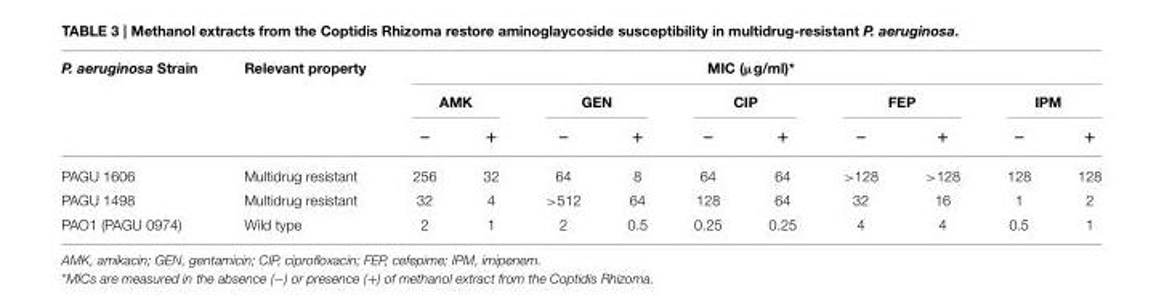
<table><thead><tr><td rowspan="3">P. aeruginosa Strain</td><td rowspan="3">Relevant property</td><td colspan="10">MIC (µg/ml)*</td></tr><tr><td colspan="2">AMK</td><td colspan="2">GEN</td><td colspan="2">CIP</td><td colspan="2">FEP</td><td colspan="2">IPM</td></tr><tr><td>−</td><td>+</td><td>−</td><td>+</td><td>−</td><td>+</td><td>−</td><td>+</td><td>−</td><td>+</td></tr></thead><tbody><tr><td>PAGU 1606</td><td>Multidrug resistant</td><td>256</td><td>32</td><td>64</td><td>8</td><td>64</td><td>64</td><td>&gt;128</td><td>&gt;128</td><td>128</td><td>128</td></tr><tr><td>PAGU 1498</td><td>Multidrug resistant</td><td>32</td><td>4</td><td>&gt;512</td><td>64</td><td>128</td><td>64</td><td>32</td><td>16</td><td>1</td><td>2</td></tr><tr><td>PAO1 (PAGU 0974)</td><td>Wild type</td><td>2</td><td>1</td><td>2</td><td>0.5</td><td>0.25</td><td>0.25</td><td>4</td><td>4</td><td>0.5</td><td>1</td></tr></tbody></table>